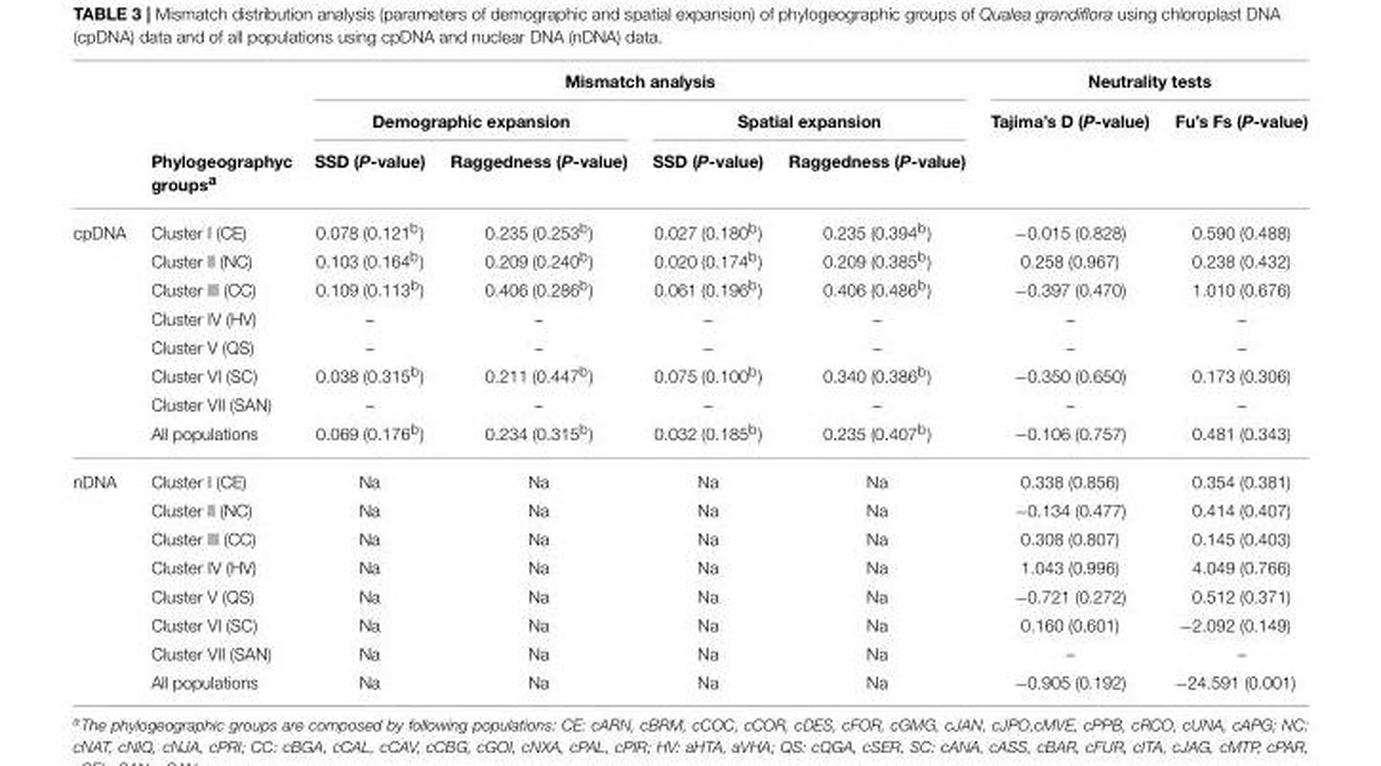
<table><thead><tr><td rowspan="3"></td><td rowspan="3">Phylogeographyc groups<sup>a</sup></td><td colspan="4">Mismatch analysis</td><td colspan="2">Neutrality tests</td></tr><tr><td colspan="2">Demographic expansion</td><td colspan="2">Spatial expansion</td><td rowspan="2">Tajima’s D (P-value)</td><td rowspan="2">Fu’s Fs (P-value)</td></tr><tr><td>SSD (P-value)</td><td>Raggedness (P-value)</td><td>SSD (P-value)</td><td>Raggedness (P-value)</td></tr></thead><tbody><tr><td rowspan="8">cpDNA</td><td>Cluster I (CE)</td><td>0.078 (0.121<sup>b</sup>)</td><td>0.235 (0.253<sup>b</sup>)</td><td>0.027 (0.180<sup>b</sup>)</td><td>0.235 (0.394<sup>b</sup>)</td><td>−0.015 (0.828)</td><td>0.590 (0.488)</td></tr><tr><td>Cluster II (NC)</td><td>0.103 (0.164<sup>b</sup>)</td><td>0.209 (0.240<sup>b</sup>)</td><td>0.020 (0.174<sup>b</sup>)</td><td>0.209 (0.385<sup>b</sup>)</td><td>0.258 (0.967)</td><td>0.238 (0.432)</td></tr><tr><td>Cluster III (CC)</td><td>0.109 (0.113<sup>b</sup>)</td><td>0.406 (0.286<sup>b</sup>)</td><td>0.061 (0.196<sup>b</sup>)</td><td>0.406 (0.486<sup>b</sup>)</td><td>−0.397 (0.470)</td><td>1.010 (0.676)</td></tr><tr><td>Cluster IV (HV)</td><td>–</td><td>–</td><td>–</td><td>–</td><td>–</td><td>–</td></tr><tr><td>Cluster V (QS)</td><td>–</td><td>–</td><td>–</td><td>–</td><td>–</td><td>–</td></tr><tr><td>Cluster VI (SC)</td><td>0.038 (0.315<sup>b</sup>)</td><td>0.211 (0.447<sup>b</sup>)</td><td>0.075 (0.100<sup>b</sup>)</td><td>0.340 (0.386<sup>b</sup>)</td><td>−0.350 (0.650)</td><td>0.173 (0.306)</td></tr><tr><td>Cluster VII (SAN)</td><td>–</td><td>–</td><td>–</td><td>–</td><td>–</td><td>–</td></tr><tr><td>All populations</td><td>0.069 (0.176<sup>b</sup>)</td><td>0.234 (0.315<sup>b</sup>)</td><td>0.032 (0.185<sup>b</sup>)</td><td>0.235 (0.407<sup>b</sup>)</td><td>−0.106 (0.757)</td><td>0.481 (0.343)</td></tr><tr><td rowspan="8">nDNA</td><td>Cluster I (CE)</td><td>Na</td><td>Na</td><td>Na</td><td>Na</td><td>0.338 (0.856)</td><td>0.354 (0.381)</td></tr><tr><td>Cluster II (NC)</td><td>Na</td><td>Na</td><td>Na</td><td>Na</td><td>−0.134 (0.477)</td><td>0.414 (0.407)</td></tr><tr><td>Cluster III (CC)</td><td>Na</td><td>Na</td><td>Na</td><td>Na</td><td>0.308 (0.807)</td><td>0.145 (0.403)</td></tr><tr><td>Cluster IV (HV)</td><td>Na</td><td>Na</td><td>Na</td><td>Na</td><td>1.043 (0.996)</td><td>4.049 (0.766)</td></tr><tr><td>Cluster V (QS)</td><td>Na</td><td>Na</td><td>Na</td><td>Na</td><td>−0.721 (0.272)</td><td>0.512 (0.371)</td></tr><tr><td>Cluster VI (SC)</td><td>Na</td><td>Na</td><td>Na</td><td>Na</td><td>0.160 (0.601)</td><td>−2.092 (0.149)</td></tr><tr><td>Cluster VII (SAN)</td><td>Na</td><td>Na</td><td>Na</td><td>Na</td><td>–</td><td>–</td></tr><tr><td>All populations</td><td>Na</td><td>Na</td><td>Na</td><td>Na</td><td>−0.905 (0.192)</td><td>−24.591 (0.001)</td></tr></tbody></table>